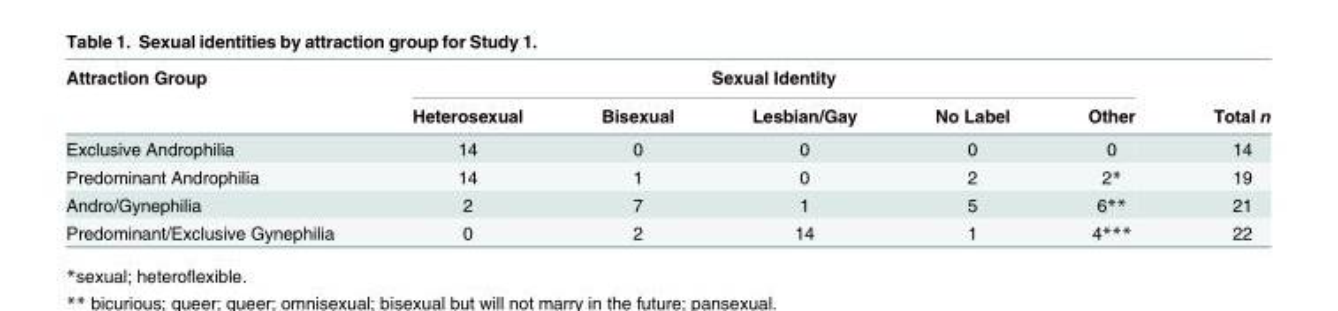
<table><thead><tr><td rowspan="2">Attraction Group</td><td colspan="5">Sexual Identity</td><td rowspan="2">Total n</td></tr><tr><td>Heterosexual</td><td>Bisexual</td><td>Lesbian/Gay</td><td>No Label</td><td>Other</td></tr></thead><tbody><tr><td>Exclusive Androphilia</td><td>14</td><td>0</td><td>0</td><td>0</td><td>0</td><td>14</td></tr><tr><td>Predominant Androphilia</td><td>14</td><td>1</td><td>0</td><td>2</td><td>2*</td><td>19</td></tr><tr><td>Andro/Gynephilia</td><td>2</td><td>7</td><td>1</td><td>5</td><td>6**</td><td>21</td></tr><tr><td>Predominant/Exclusive Gynephilia</td><td>0</td><td>2</td><td>14</td><td>1</td><td>4***</td><td>22</td></tr></tbody></table>